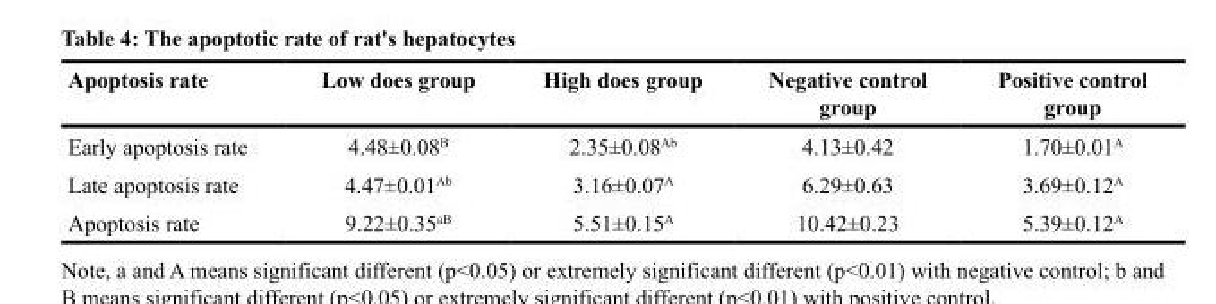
<table><thead><tr><td>Apoptosis rate</td><td>Low does group</td><td>High does group</td><td>Negative control group</td><td>Positive control group</td></tr></thead><tbody><tr><td>Early apoptosis rate</td><td>4.48±0.08<sup>B</sup></td><td>2.35±0.08<sup>Ab</sup></td><td>4.13±0.42</td><td>1.70±0.01<sup>A</sup></td></tr><tr><td>Late apoptosis rate</td><td>4.47±0.01<sup>Ab</sup></td><td>3.16±0.07<sup>A</sup></td><td>6.29±0.63</td><td>3.69±0.12<sup>A</sup></td></tr><tr><td>Apoptosis rate</td><td>9.22±0.35<sup>aB</sup></td><td>5.51±0.15<sup>A</sup></td><td>10.42±0.23</td><td>5.39±0.12<sup>A</sup></td></tr></tbody></table>